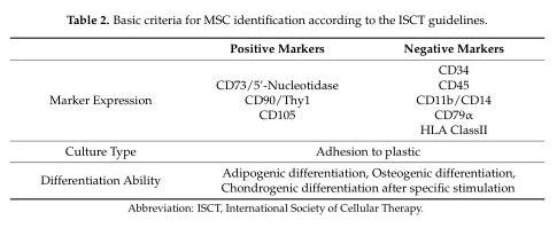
<table><thead><tr><td></td><td>Positive Markers</td><td>Negative Markers</td></tr></thead><tbody><tr><td>Marker Expression</td><td>CD73/5’-Nucleotidase CD90/Thy1 CD105</td><td>CD34 CD45 CD11b/CD14 CD79α HLA ClassII</td></tr><tr><td>Culture Type</td><td colspan="2">Adhesion to plastic</td></tr><tr><td>Differentiation Ability</td><td colspan="2">Adipogenic differentiation, Osteogenic differentiation, Chondrogenic differentiation after specific stimulation</td></tr></tbody></table>